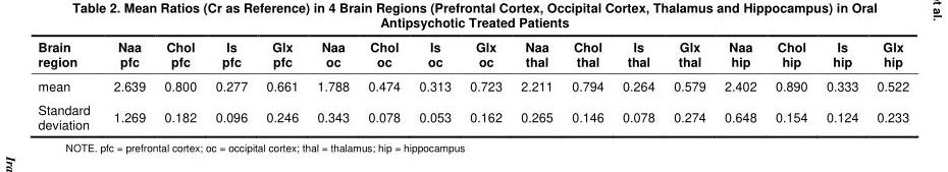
<table><thead><tr><td>Brain region</td><td>Naa pfc</td><td>Chol pfc</td><td>Is pfc</td><td>Glx pfc</td><td>Naa oc</td><td>Chol oc</td><td>Is oc</td><td>Glx oc</td><td>Naa thal</td><td>Chol thal</td><td>Is thal</td><td>Glx thal</td><td>Naa hip</td><td>Chol hip</td><td>Is hip</td><td>Glx hip</td></tr></thead><tbody><tr><td>mean</td><td>2.639</td><td>0.800</td><td>0.277</td><td>0.661</td><td>1.788</td><td>0.474</td><td>0.313</td><td>0.723</td><td>2.211</td><td>0.794</td><td>0.264</td><td>0.579</td><td>2.402</td><td>0.890</td><td>0.333</td><td>0.522</td></tr><tr><td>Standard deviation</td><td>1.269</td><td>0.182</td><td>0.096</td><td>0.246</td><td>0.343</td><td>0.078</td><td>0.053</td><td>0.162</td><td>0.265</td><td>0.146</td><td>0.078</td><td>0.274</td><td>0.648</td><td>0.154</td><td>0.124</td><td>0.233</td></tr></tbody></table>